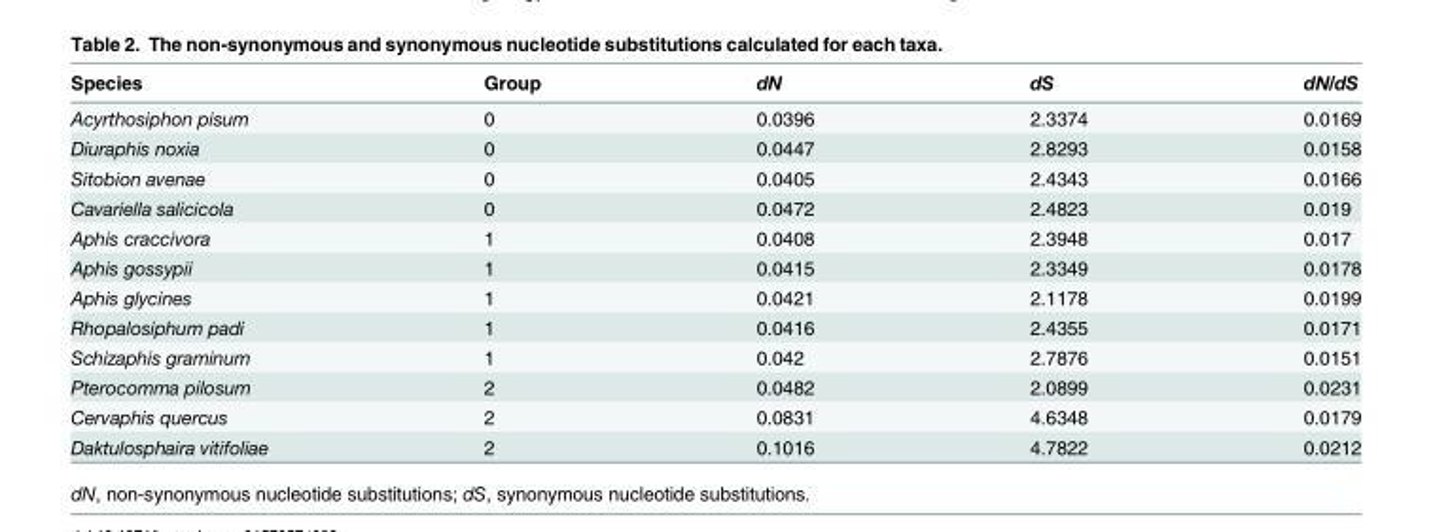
<table><thead><tr><td>Species</td><td>Group</td><td>dN</td><td>dS</td><td>dN/dS</td></tr></thead><tbody><tr><td>Acyrthosiphon pisum</td><td>0</td><td>0.0396</td><td>2.3374</td><td>0.0169</td></tr><tr><td>Diuraphis noxia</td><td>0</td><td>0.0447</td><td>2.8293</td><td>0.0158</td></tr><tr><td>Sitobion avenae</td><td>0</td><td>0.0405</td><td>2.4343</td><td>0.0166</td></tr><tr><td>Cavariella salicicola</td><td>0</td><td>0.0472</td><td>2.4823</td><td>0.019</td></tr><tr><td>Aphis craccivora</td><td>1</td><td>0.0408</td><td>2.3948</td><td>0.017</td></tr><tr><td>Aphis gossypii</td><td>1</td><td>0.0415</td><td>2.3349</td><td>0.0178</td></tr><tr><td>Aphis glycines</td><td>1</td><td>0.0421</td><td>2.1178</td><td>0.0199</td></tr><tr><td>Rhopalosiphum padi</td><td>1</td><td>0.0416</td><td>2.4355</td><td>0.0171</td></tr><tr><td>Schizaphis graminum</td><td>1</td><td>0.042</td><td>2.7876</td><td>0.0151</td></tr><tr><td>Pterocomma pilosum</td><td>2</td><td>0.0482</td><td>2.0899</td><td>0.0231</td></tr><tr><td>Cervaphis quercus</td><td>2</td><td>0.0831</td><td>4.6348</td><td>0.0179</td></tr><tr><td>Daktulosphaira vitifoliae</td><td>2</td><td>0.1016</td><td>4.7822</td><td>0.0212</td></tr></tbody></table>